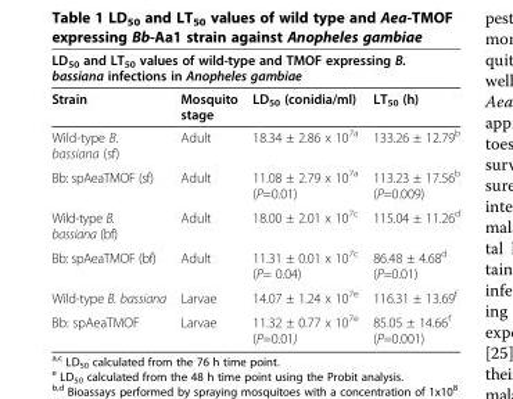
<table><thead><tr><td colspan="4">LD<sub>50</sub> and LT<sub>50</sub> values of wild-type and TMOF expressing B. bassiana infections in Anopheles gambiae</td></tr><tr><td>Strain</td><td>Mosquito stage</td><td>LD<sub>50</sub> (conidia/ml)</td><td>LT<sub>50</sub> (h)</td></tr></thead><tbody><tr><td>Wild-type B. bassiana (sf)</td><td>Adult</td><td>18.34 ± 2.86 x 10<sup>7a</sup></td><td>133.26 ± 12.79<sup>b</sup></td></tr><tr><td>Bb: spAeaTMOF (sf)</td><td>Adult</td><td>11.08 ± 2.79 x 10<sup>7a</sup> (P=0.01)</td><td>113.23 ± 17.56<sup>b</sup> (P=0.009)</td></tr><tr><td>Wild-type B. bassiana (bf)</td><td>Adult</td><td>18.00 ± 2.01 x 10<sup>7c</sup></td><td>115.04 ± 11.26<sup>d</sup></td></tr><tr><td>Bb: spAeaTMOF (bf)</td><td>Adult</td><td>11.31 ± 0.01 x 10<sup>7c</sup> (P= 0.04)</td><td>86.48 ± 4.68<sup>d</sup> (P=0.01)</td></tr><tr><td>Wild-type B. bassiana</td><td>Larvae</td><td>14.07 ± 1.24 x 10<sup>7e</sup></td><td>116.31 ± 13.69<sup>f</sup></td></tr><tr><td>Bb: spAeaTMOF</td><td>Larvae</td><td>11.32 ± 0.77 x 10<sup>7e</sup> (P=0.01)</td><td>85.05 ± 14.66<sup>f</sup> (P=0.001)</td></tr></tbody></table>